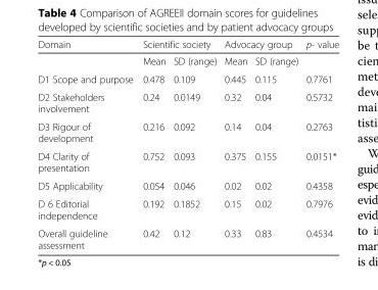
<table><thead><tr><td rowspan="2">Domain</td><td colspan="2">Scientific society</td><td colspan="2">Advocacy group</td><td rowspan="2">p- value</td></tr><tr><td>Mean</td><td>SD (range)</td><td>Mean</td><td>SD (range)</td></tr></thead><tbody><tr><td>D1 Scope and purpose</td><td>0.478</td><td>0.109</td><td>0.445</td><td>0.115</td><td>0.7761</td></tr><tr><td>D2 Stakeholders involvement</td><td>0.24</td><td>0.0149</td><td>0.32</td><td>0.04</td><td>0.5732</td></tr><tr><td>D3 Rigour of development</td><td>0.216</td><td>0.092</td><td>0.14</td><td>0.04</td><td>0.2763</td></tr><tr><td>D4 Clarity of presentation</td><td>0.752</td><td>0.093</td><td>0.375</td><td>0.155</td><td>0.0151*</td></tr><tr><td>D5 Applicability</td><td>0.054</td><td>0.046</td><td>0.02</td><td>0.02</td><td>0.4358</td></tr><tr><td>D 6 Editorial independence</td><td>0.192</td><td>0.1852</td><td>0.15</td><td>0.02</td><td>0.7976</td></tr><tr><td>Overall guideline assessment</td><td>0.42</td><td>0.12</td><td>0.33</td><td>0.83</td><td>0.4534</td></tr></tbody></table>